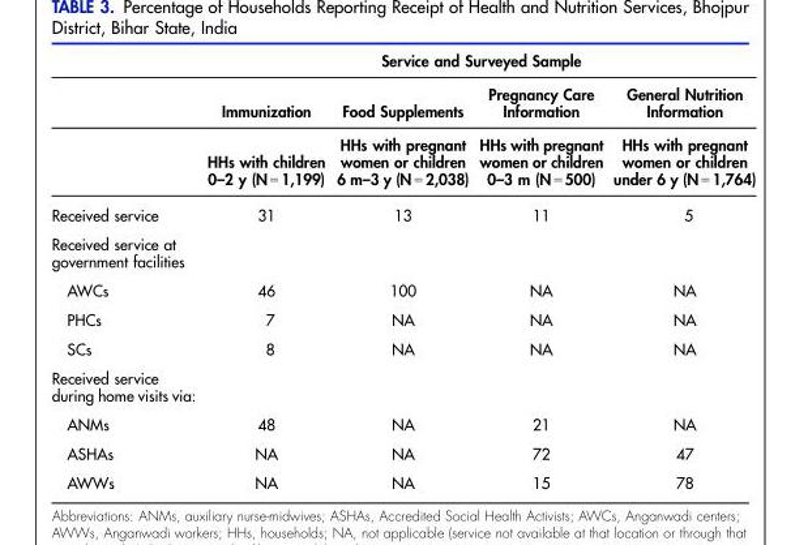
<table><thead><tr><td rowspan="3"></td><td colspan="4">Service and Surveyed Sample</td></tr><tr><td rowspan="2">Immunization HHs with children 0–2 y (N = 1,199)</td><td rowspan="2">Food Supplements HHs with pregnant women or children 6 m–3 y (N = 2,038)</td><td rowspan="2">Pregnancy Care Information HHs with pregnant women or children 0–3 m (N = 500)</td><td rowspan="2">General Nutrition Information HHs with pregnant women or children under 6 y (N = 1,764)</td></tr><tr></tr></thead><tbody><tr><td>Received service</td><td>31</td><td>13</td><td>11</td><td>5</td></tr><tr><td colspan="5">Received service at government facilities</td></tr><tr><td>AWCs</td><td>46</td><td>100</td><td>NA</td><td>NA</td></tr><tr><td>PHCs</td><td>7</td><td>NA</td><td>NA</td><td>NA</td></tr><tr><td>SCs</td><td>8</td><td>NA</td><td>NA</td><td>NA</td></tr><tr><td colspan="5">Received service during home visits via:</td></tr><tr><td>ANMs</td><td>48</td><td>NA</td><td>21</td><td>NA</td></tr><tr><td>ASHAs</td><td>NA</td><td>NA</td><td>72</td><td>47</td></tr><tr><td>AWWs</td><td>NA</td><td>NA</td><td>15</td><td>78</td></tr></tbody></table>